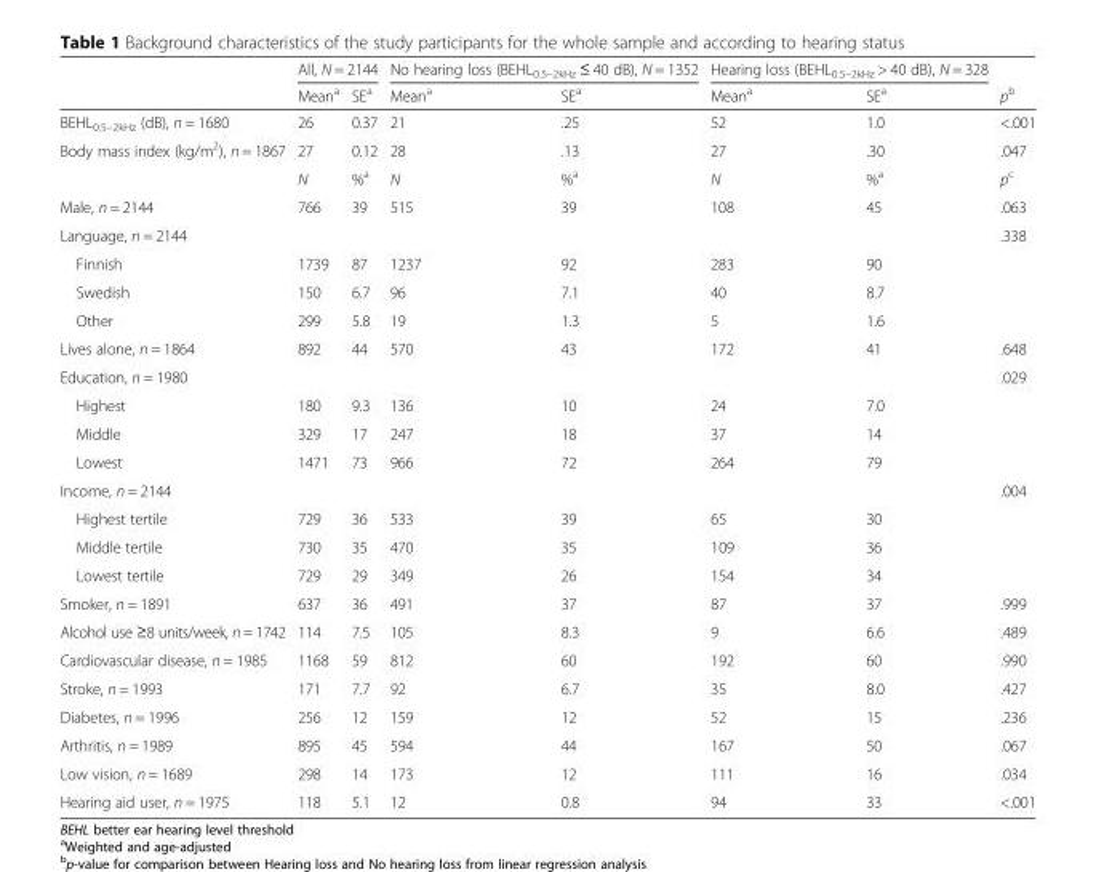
<table><thead><tr><td rowspan="2"></td><td colspan="2">All, N = 2144</td><td colspan="2">No hearing loss (BEHL<sub>0.5–2kHz</sub> ≤ 40 dB), N = 1352</td><td colspan="2">Hearing loss (BEHL<sub>0.5–2kHz</sub> &gt; 40 dB), N = 328</td><td rowspan="2">p<sup>b</sup></td></tr><tr><td>Mean<sup>a</sup></td><td>SE<sup>a</sup></td><td>Mean<sup>a</sup></td><td>SE<sup>a</sup></td><td>Mean<sup>a</sup></td><td>SE<sup>a</sup></td></tr></thead><tbody><tr><td>BEHL<sub>0.5–2kHz</sub> (dB), n = 1680</td><td>26</td><td>0.37</td><td>21</td><td>.25</td><td>52</td><td>1.0</td><td>&lt;.001</td></tr><tr><td rowspan="2">Body mass index (kg/m<sup>2</sup>), n = 1867</td><td>27</td><td>0.12</td><td>28</td><td>.13</td><td>27</td><td>.30</td><td>.047</td></tr><tr><td>N</td><td>%<sup>a</sup></td><td>N</td><td>%<sup>a</sup></td><td>N</td><td>%<sup>a</sup></td><td>p<sup>c</sup></td></tr><tr><td>Male, n = 2144</td><td>766</td><td>39</td><td>515</td><td>39</td><td>108</td><td>45</td><td>.063</td></tr><tr><td>Language, n = 2144</td><td></td><td></td><td></td><td></td><td></td><td></td><td>.338</td></tr><tr><td>Finnish</td><td>1739</td><td>87</td><td>1237</td><td>92</td><td>283</td><td>90</td><td></td></tr><tr><td>Swedish</td><td>150</td><td>6.7</td><td>96</td><td>7.1</td><td>40</td><td>8.7</td><td></td></tr><tr><td>Other</td><td>299</td><td>5.8</td><td>19</td><td>1.3</td><td>5</td><td>1.6</td><td></td></tr><tr><td>Lives alone, n = 1864</td><td>892</td><td>44</td><td>570</td><td>43</td><td>172</td><td>41</td><td>.648</td></tr><tr><td>Education, n = 1980</td><td></td><td></td><td></td><td></td><td></td><td></td><td>.029</td></tr><tr><td>Highest</td><td>180</td><td>9.3</td><td>136</td><td>10</td><td>24</td><td>7.0</td><td></td></tr><tr><td>Middle</td><td>329</td><td>17</td><td>247</td><td>18</td><td>37</td><td>14</td><td></td></tr><tr><td>Lowest</td><td>1471</td><td>73</td><td>966</td><td>72</td><td>264</td><td>79</td><td></td></tr><tr><td>Income, n = 2144</td><td></td><td></td><td></td><td></td><td></td><td></td><td>.004</td></tr><tr><td>Highest tertile</td><td>729</td><td>36</td><td>533</td><td>39</td><td>65</td><td>30</td><td></td></tr><tr><td>Middle tertile</td><td>730</td><td>35</td><td>470</td><td>35</td><td>109</td><td>36</td><td></td></tr><tr><td>Lowest tertile</td><td>729</td><td>29</td><td>349</td><td>26</td><td>154</td><td>34</td><td></td></tr><tr><td>Smoker, n = 1891</td><td>637</td><td>36</td><td>491</td><td>37</td><td>87</td><td>37</td><td>.999</td></tr><tr><td>Alcohol use ≥8 units/week, n = 1742</td><td>114</td><td>7.5</td><td>105</td><td>8.3</td><td>9</td><td>6.6</td><td>.489</td></tr><tr><td>Cardiovascular disease, n = 1985</td><td>1168</td><td>59</td><td>812</td><td>60</td><td>192</td><td>60</td><td>.990</td></tr><tr><td>Stroke, n = 1993</td><td>171</td><td>7.7</td><td>92</td><td>6.7</td><td>35</td><td>8.0</td><td>.427</td></tr><tr><td>Diabetes, n = 1996</td><td>256</td><td>12</td><td>159</td><td>12</td><td>52</td><td>15</td><td>.236</td></tr><tr><td>Arthritis, n = 1989</td><td>895</td><td>45</td><td>594</td><td>44</td><td>167</td><td>50</td><td>.067</td></tr><tr><td>Low vision, n = 1689</td><td>298</td><td>14</td><td>173</td><td>12</td><td>111</td><td>16</td><td>.034</td></tr><tr><td>Hearing aid user, n = 1975</td><td>118</td><td>5.1</td><td>12</td><td>0.8</td><td>94</td><td>33</td><td>&lt;.001</td></tr></tbody></table>